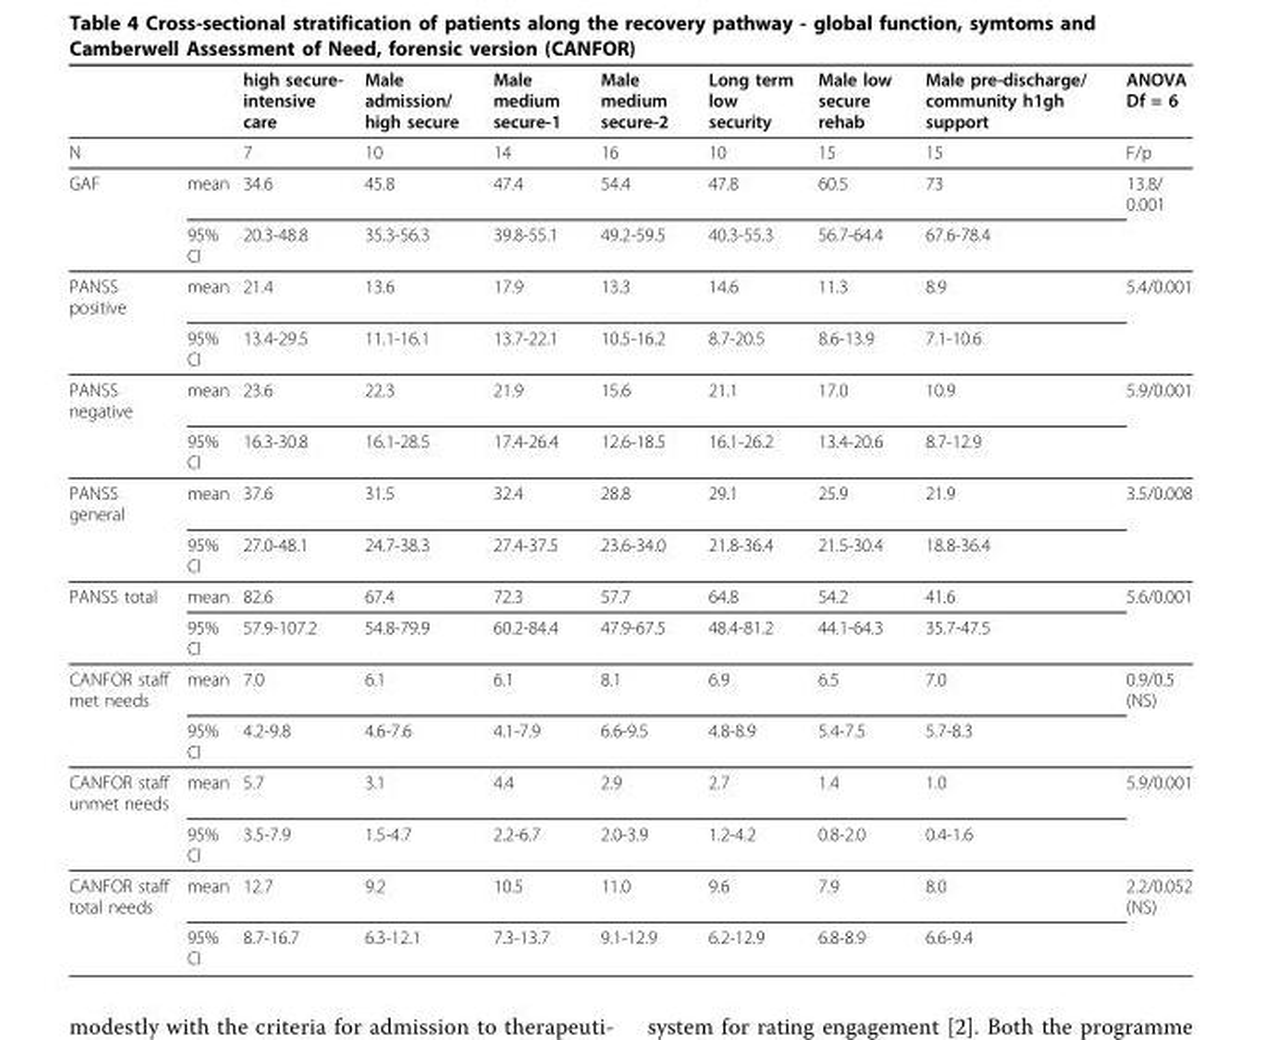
<table><thead><tr><td></td><td></td><td>high secure- intensive care</td><td>Male admission/ high secure</td><td>Male medium secure-1</td><td>Male medium secure-2</td><td>Long term low security</td><td>Male low secure rehab</td><td>Male pre-discharge/ community h1gh support</td><td>ANOVA Df = 6</td></tr></thead><tbody><tr><td>N</td><td></td><td>7</td><td>10</td><td>14</td><td>16</td><td>10</td><td>15</td><td>15</td><td>F/p</td></tr><tr><td rowspan="2">GAF</td><td>mean</td><td>34.6</td><td>45.8</td><td>47.4</td><td>54.4</td><td>47.8</td><td>60.5</td><td>73</td><td>13.8/ 0.001</td></tr><tr><td>95% CI</td><td>20.3-48.8</td><td>35.3-56.3</td><td>39.8-55.1</td><td>49.2-59.5</td><td>40.3-55.3</td><td>56.7-64.4</td><td>67.6-78.4</td><td></td></tr><tr><td rowspan="2">PANSS positive</td><td>mean</td><td>21.4</td><td>13.6</td><td>17.9</td><td>13.3</td><td>14.6</td><td>11.3</td><td>8.9</td><td>5.4/0.001</td></tr><tr><td>95% CI</td><td>13.4-29.5</td><td>11.1-16.1</td><td>13.7-22.1</td><td>10.5-16.2</td><td>8.7-20.5</td><td>8.6-13.9</td><td>7.1-10.6</td><td></td></tr><tr><td rowspan="2">PANSS negative</td><td>mean</td><td>23.6</td><td>22.3</td><td>21.9</td><td>15.6</td><td>21.1</td><td>17.0</td><td>10.9</td><td>5.9/0.001</td></tr><tr><td>95% CI</td><td>16.3-30.8</td><td>16.1-28.5</td><td>17.4-26.4</td><td>12.6-18.5</td><td>16.1-26.2</td><td>13.4-20.6</td><td>8.7-12.9</td><td></td></tr><tr><td rowspan="2">PANSS general</td><td>mean</td><td>37.6</td><td>31.5</td><td>32.4</td><td>28.8</td><td>29.1</td><td>25.9</td><td>21.9</td><td>3.5/0.008</td></tr><tr><td>95% CI</td><td>27.0-48.1</td><td>24.7-38.3</td><td>27.4-37.5</td><td>23.6-34.0</td><td>21.8-36.4</td><td>21.5-30.4</td><td>18.8-36.4</td><td></td></tr><tr><td rowspan="2">PANSS total</td><td>mean</td><td>82.6</td><td>67.4</td><td>72.3</td><td>57.7</td><td>64.8</td><td>54.2</td><td>41.6</td><td>5.6/0.001</td></tr><tr><td>95% CI</td><td>57.9-107.2</td><td>54.8-79.9</td><td>60.2-84.4</td><td>47.9-67.5</td><td>48.4-81.2</td><td>44.1-64.3</td><td>35.7-47.5</td><td></td></tr><tr><td rowspan="2">CANFOR staff met needs</td><td>mean</td><td>7.0</td><td>6.1</td><td>6.1</td><td>8.1</td><td>6.9</td><td>6.5</td><td>7.0</td><td>0.9/0.5 (NS)</td></tr><tr><td>95% CI</td><td>4.2-9.8</td><td>4.6-7.6</td><td>4.1-7.9</td><td>6.6-9.5</td><td>4.8-8.9</td><td>5.4-7.5</td><td>5.7-8.3</td><td></td></tr><tr><td rowspan="2">CANFOR staff unmet needs</td><td>mean</td><td>5.7</td><td>3.1</td><td>4.4</td><td>2.9</td><td>2.7</td><td>1.4</td><td>1.0</td><td>5.9/0.001</td></tr><tr><td>95% CI</td><td>3.5-7.9</td><td>1.5-4.7</td><td>2.2-6.7</td><td>2.0-3.9</td><td>1.2-4.2</td><td>0.8-2.0</td><td>0.4-1.6</td><td></td></tr><tr><td rowspan="2">CANFOR staff total needs</td><td>mean</td><td>12.7</td><td>9.2</td><td>10.5</td><td>11.0</td><td>9.6</td><td>7.9</td><td>8.0</td><td>2.2/0.052 (NS)</td></tr><tr><td>95% CI</td><td>8.7-16.7</td><td>6.3-12.1</td><td>7.3-13.7</td><td>9.1-12.9</td><td>6.2-12.9</td><td>6.8-8.9</td><td>6.6-9.4</td><td></td></tr></tbody></table>